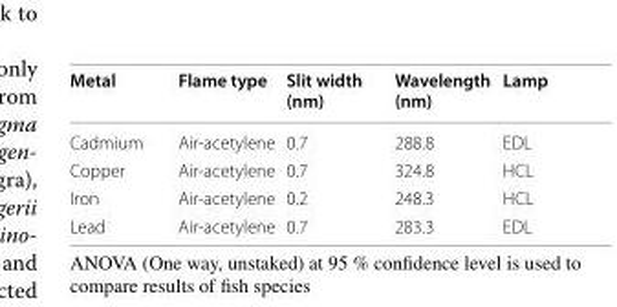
<table><thead><tr><td>Metal</td><td>Flame type</td><td>Slit width (nm)</td><td>Wavelength (nm)</td><td>Lamp</td></tr></thead><tbody><tr><td>Cadmium</td><td>Air‑acetylene</td><td>0.7</td><td>288.8</td><td>EDL</td></tr><tr><td>Copper</td><td>Air‑acetylene</td><td>0.7</td><td>324.8</td><td>HCL</td></tr><tr><td>Iron</td><td>Air‑acetylene</td><td>0.2</td><td>248.3</td><td>HCL</td></tr><tr><td>Lead</td><td>Air‑acetylene</td><td>0.7</td><td>283.3</td><td>EDL</td></tr></tbody></table>